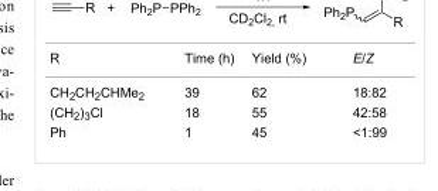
<table><tbody><tr><td>R</td><td>Time (h)</td><td>Yield (%)</td><td>E/Z</td></tr><tr><td>CH<sub>2</sub>CH<sub>2</sub>CHMe<sub>2</sub></td><td>39</td><td>62</td><td>18:82</td></tr><tr><td>(CH<sub>2</sub>)<sub>3</sub>Cl</td><td>18</td><td>55</td><td>42:58</td></tr><tr><td>Ph</td><td>1</td><td>45</td><td>&lt;1:99</td></tr></tbody></table>